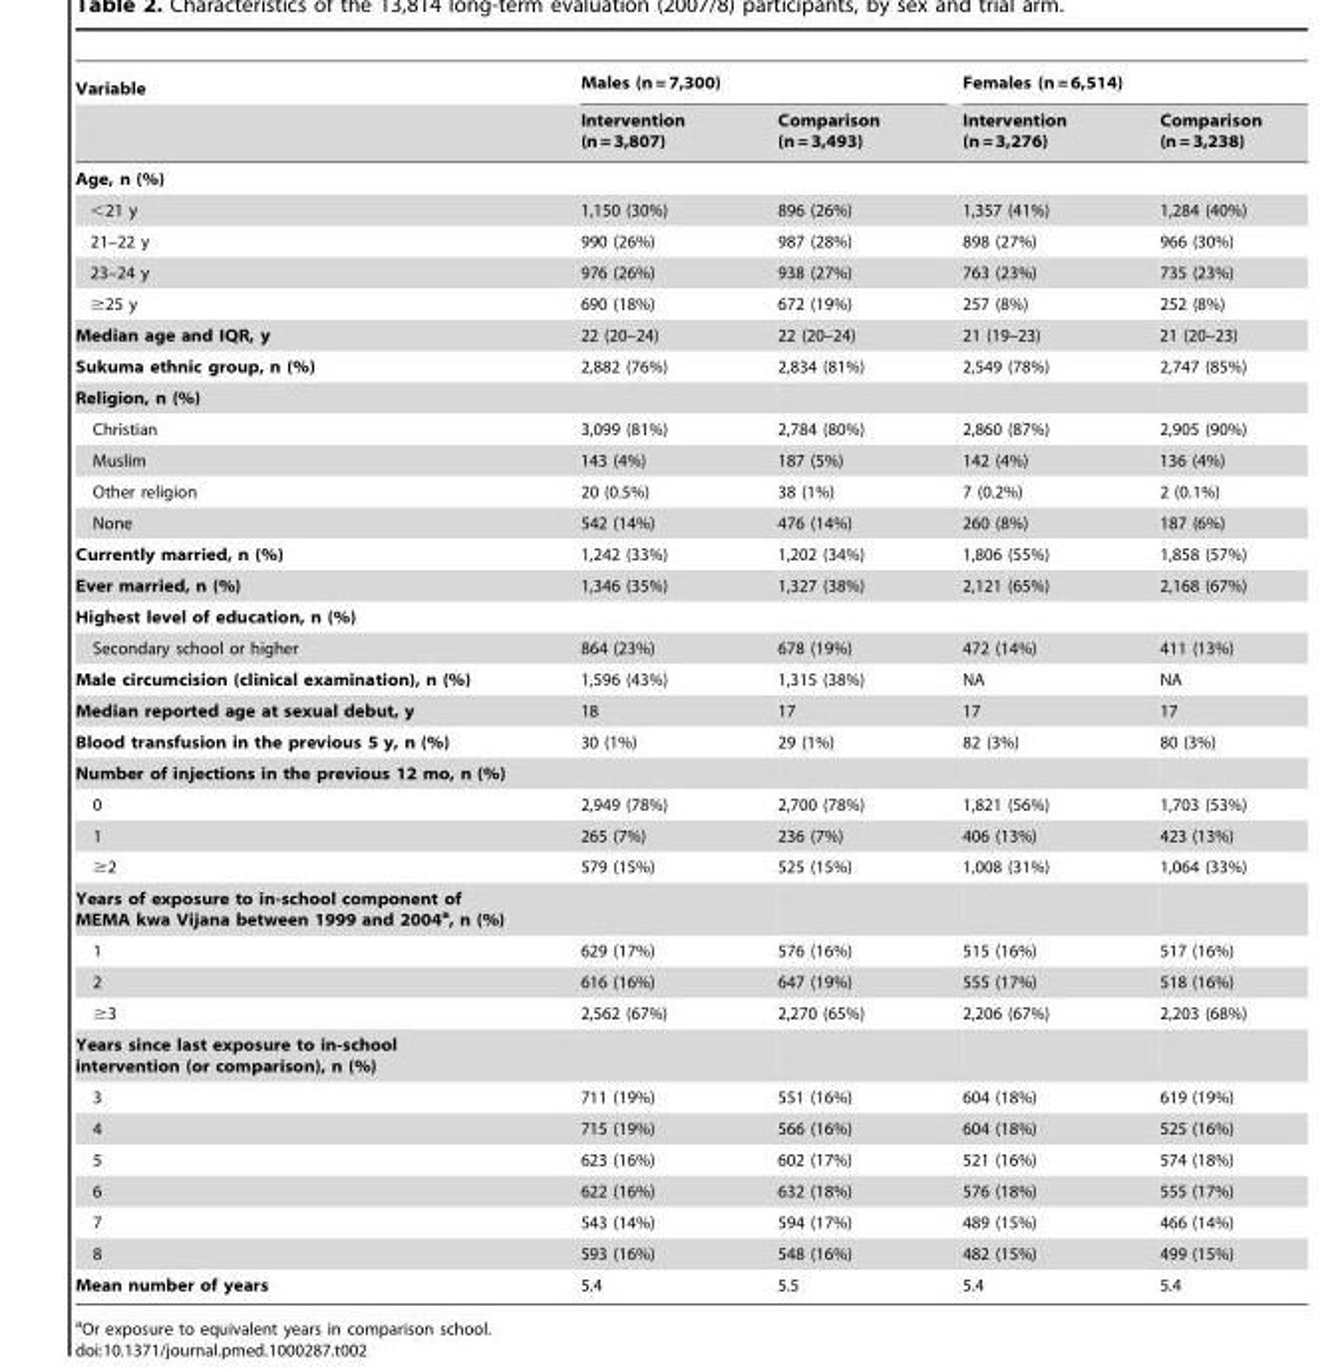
<table><thead><tr><td rowspan="2">Variable</td><td colspan="2">Males (n = 7,300)</td><td colspan="2">Females (n = 6,514)</td></tr><tr><td>Intervention (n = 3,807)</td><td>Comparison (n = 3,493)</td><td>Intervention (n = 3,276)</td><td>Comparison (n = 3,238)</td></tr></thead><tbody><tr><td colspan="5">Age, n (%)</td></tr><tr><td>&lt;21 y</td><td>1,150 (30%)</td><td>896 (26%)</td><td>1,357 (41%)</td><td>1,284 (40%)</td></tr><tr><td>21–22 y</td><td>990 (26%)</td><td>987 (28%)</td><td>898 (27%)</td><td>966 (30%)</td></tr><tr><td>23–24 y</td><td>976 (26%)</td><td>938 (27%)</td><td>763 (23%)</td><td>735 (23%)</td></tr><tr><td>≥25 y</td><td>690 (18%)</td><td>672 (19%)</td><td>257 (8%)</td><td>252 (8%)</td></tr><tr><td>Median age and IQR, y</td><td>22 (20–24)</td><td>22 (20–24)</td><td>21 (19–23)</td><td>21 (20–23)</td></tr><tr><td>Sukuma ethnic group, n (%)</td><td>2,882 (76%)</td><td>2,834 (81%)</td><td>2,549 (78%)</td><td>2,747 (85%)</td></tr><tr><td colspan="5">Religion, n (%)</td></tr><tr><td>Christian</td><td>3,099 (81%)</td><td>2,784 (80%)</td><td>2,860 (87%)</td><td>2,905 (90%)</td></tr><tr><td>Muslim</td><td>143 (4%)</td><td>187 (5%)</td><td>142 (4%)</td><td>136 (4%)</td></tr><tr><td>Other religion</td><td>20 (0.5%)</td><td>38 (1%)</td><td>7 (0.2%)</td><td>2 (0.1%)</td></tr><tr><td>None</td><td>542 (14%)</td><td>476 (14%)</td><td>260 (8%)</td><td>187 (6%)</td></tr><tr><td>Currently married, n (%)</td><td>1,242 (33%)</td><td>1,202 (34%)</td><td>1,806 (55%)</td><td>1,858 (57%)</td></tr><tr><td>Ever married, n (%)</td><td>1,346 (35%)</td><td>1,327 (38%)</td><td>2,121 (65%)</td><td>2,168 (67%)</td></tr><tr><td colspan="5">Highest level of education, n (%)</td></tr><tr><td>Secondary school or higher</td><td>864 (23%)</td><td>678 (19%)</td><td>472 (14%)</td><td>411 (13%)</td></tr><tr><td>Male circumcision (clinical examination), n (%)</td><td>1,596 (43%)</td><td>1,315 (38%)</td><td>NA</td><td>NA</td></tr><tr><td>Median reported age at sexual debut, y</td><td>18</td><td>17</td><td>17</td><td>17</td></tr><tr><td>Blood transfusion in the previous 5 y, n (%)</td><td>30 (1%)</td><td>29 (1%)</td><td>82 (3%)</td><td>80 (3%)</td></tr><tr><td colspan="5">Number of injections in the previous 12 mo, n (%)</td></tr><tr><td>0</td><td>2,949 (78%)</td><td>2,700 (78%)</td><td>1,821 (56%)</td><td>1,703 (53%)</td></tr><tr><td>1</td><td>265 (7%)</td><td>236 (7%)</td><td>406 (13%)</td><td>423 (13%)</td></tr><tr><td>≥2</td><td>579 (15%)</td><td>525 (15%)</td><td>1,008 (31%)</td><td>1,064 (33%)</td></tr><tr><td colspan="5">Years of exposure to in-school component of MEMA kwa Vijana between 1999 and 2004a, n (%)</td></tr><tr><td>1</td><td>629 (17%)</td><td>576 (16%)</td><td>515 (16%)</td><td>517 (16%)</td></tr><tr><td>2</td><td>616 (16%)</td><td>647 (19%)</td><td>555 (17%)</td><td>518 (16%)</td></tr><tr><td>≥3</td><td>2,562 (67%)</td><td>2,270 (65%)</td><td>2,206 (67%)</td><td>2,203 (68%)</td></tr><tr><td colspan="5">Years since last exposure to in-school intervention (or comparison), n (%)</td></tr><tr><td>3</td><td>711 (19%)</td><td>551 (16%)</td><td>604 (18%)</td><td>619 (19%)</td></tr><tr><td>4</td><td>715 (19%)</td><td>566 (16%)</td><td>604 (18%)</td><td>525 (16%)</td></tr><tr><td>5</td><td>623 (16%)</td><td>602 (17%)</td><td>521 (16%)</td><td>574 (18%)</td></tr><tr><td>6</td><td>622 (16%)</td><td>632 (18%)</td><td>576 (18%)</td><td>555 (17%)</td></tr><tr><td>7</td><td>543 (14%)</td><td>594 (17%)</td><td>489 (15%)</td><td>466 (14%)</td></tr><tr><td>8</td><td>593 (16%)</td><td>548 (16%)</td><td>482 (15%)</td><td>499 (15%)</td></tr><tr><td>Mean number of years</td><td>5.4</td><td>5.5</td><td>5.4</td><td>5.4</td></tr></tbody></table>